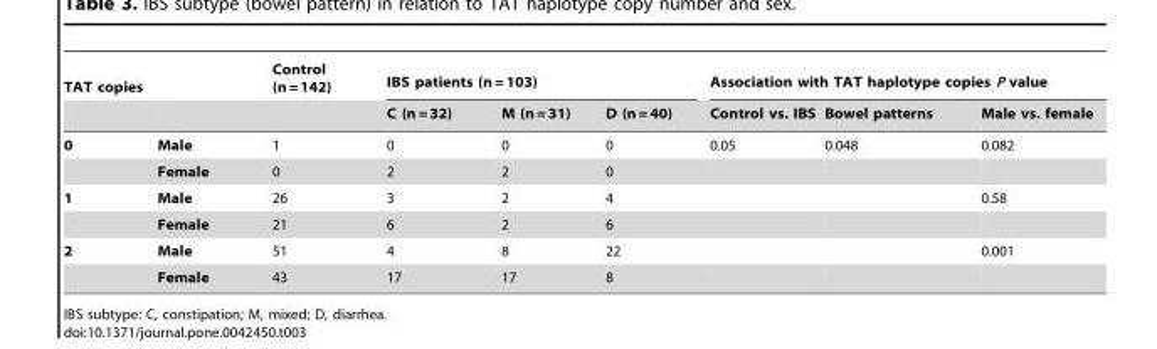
<table><thead><tr><td rowspan="2">TAT copies</td><td rowspan="2"></td><td rowspan="2">Control (n = 142)</td><td colspan="3">IBS patients (n = 103)</td><td colspan="3">Association with TAT haplotype copies P value</td></tr><tr><td>C (n = 32)</td><td>M (n = 31)</td><td>D (n = 40)</td><td>Control vs. IBS</td><td>Bowel patterns</td><td>Male vs. female</td></tr></thead><tbody><tr><td rowspan="2">0</td><td>Male</td><td>1</td><td>0</td><td>0</td><td>0</td><td>0.05</td><td>0.048</td><td>0.082</td></tr><tr><td>Female</td><td>0</td><td>2</td><td>2</td><td>0</td><td></td><td></td><td></td></tr><tr><td rowspan="2">1</td><td>Male</td><td>26</td><td>3</td><td>2</td><td>4</td><td></td><td></td><td>0.58</td></tr><tr><td>Female</td><td>21</td><td>6</td><td>2</td><td>6</td><td></td><td></td><td></td></tr><tr><td rowspan="2">2</td><td>Male</td><td>51</td><td>4</td><td>8</td><td>22</td><td></td><td></td><td>0.001</td></tr><tr><td>Female</td><td>43</td><td>17</td><td>17</td><td>8</td><td></td><td></td><td></td></tr></tbody></table>